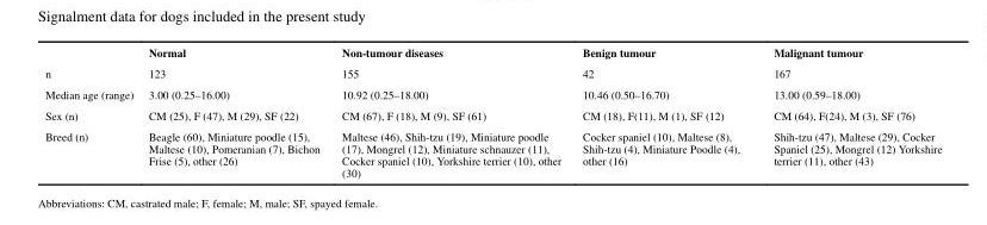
<table><thead><tr><td></td><td>Normal</td><td>Non-tumour diseases</td><td>Benign tumour</td><td>Malignant tumour</td></tr></thead><tbody><tr><td>n</td><td>123</td><td>155</td><td>42</td><td>167</td></tr><tr><td>Median age (range)</td><td>3.00 (0.25–16.00)</td><td>10.92 (0.25–18.00)</td><td>10.46 (0.50–16.70)</td><td>13.00 (0.59–18.00)</td></tr><tr><td>Sex (n)</td><td>CM (25), F (47), M (29), SF (22)</td><td>CM (67), F (18), M (9), SF (61)</td><td>CM (18), F(11), M (1), SF (12)</td><td>CM (64), F(24), M (3), SF (76)</td></tr><tr><td>Breed (n)</td><td>Beagle (60), Miniature poodle (15), Maltese (10), Pomeranian (7), Bichon Frise (5), other (26)</td><td>Maltese (46), Shih-tzu (19), Miniature poodle (17), Mongrel (12), Miniature schnauzer (11), Cocker spaniel (10), Yorkshire terrier (10), other (30)</td><td>Cocker spaniel (10), Maltese (8), Shih-tzu (4), Miniature Poodle (4), other (16)</td><td>Shih-tzu (47), Maltese (29), Cocker Spaniel (25), Mongrel (12) Yorkshire terrier (11), other (43)</td></tr></tbody></table>